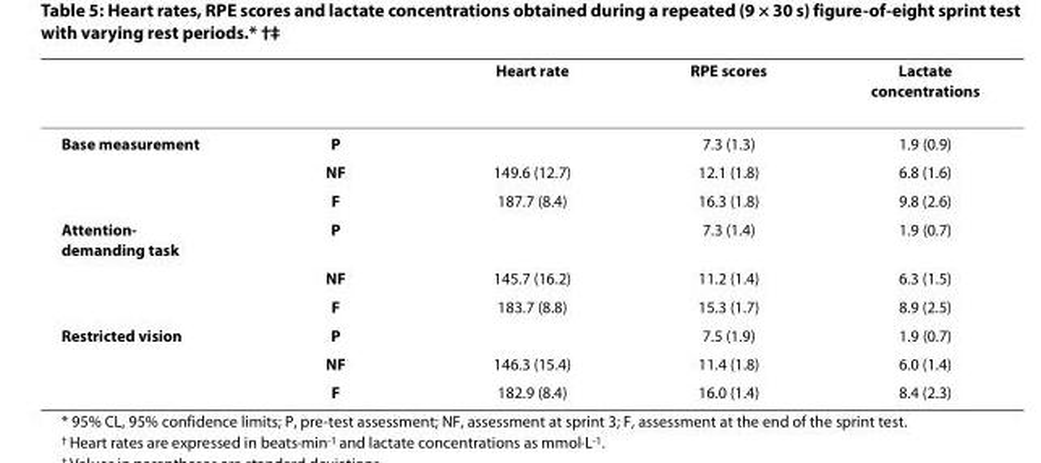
<table><thead><tr><td></td><td></td><td>Heart rate</td><td>RPE scores</td><td>Lactate concentrations</td></tr></thead><tbody><tr><td rowspan="3">Base measurement</td><td>P</td><td></td><td>7.3 (1.3)</td><td>1.9 (0.9)</td></tr><tr><td>NF</td><td>149.6 (12.7)</td><td>12.1 (1.8)</td><td>6.8 (1.6)</td></tr><tr><td>F</td><td>187.7 (8.4)</td><td>16.3 (1.8)</td><td>9.8 (2.6)</td></tr><tr><td rowspan="3">Attention- demanding task</td><td>P</td><td></td><td>7.3 (1.4)</td><td>1.9 (0.7)</td></tr><tr><td>NF</td><td>145.7 (16.2)</td><td>11.2 (1.4)</td><td>6.3 (1.5)</td></tr><tr><td>F</td><td>183.7 (8.8)</td><td>15.3 (1.7)</td><td>8.9 (2.5)</td></tr><tr><td rowspan="3">Restricted vision</td><td>P</td><td></td><td>7.5 (1.9)</td><td>1.9 (0.7)</td></tr><tr><td>NF</td><td>146.3 (15.4)</td><td>11.4 (1.8)</td><td>6.0 (1.4)</td></tr><tr><td>F</td><td>182.9 (8.4)</td><td>16.0 (1.4)</td><td>8.4 (2.3)</td></tr></tbody></table>